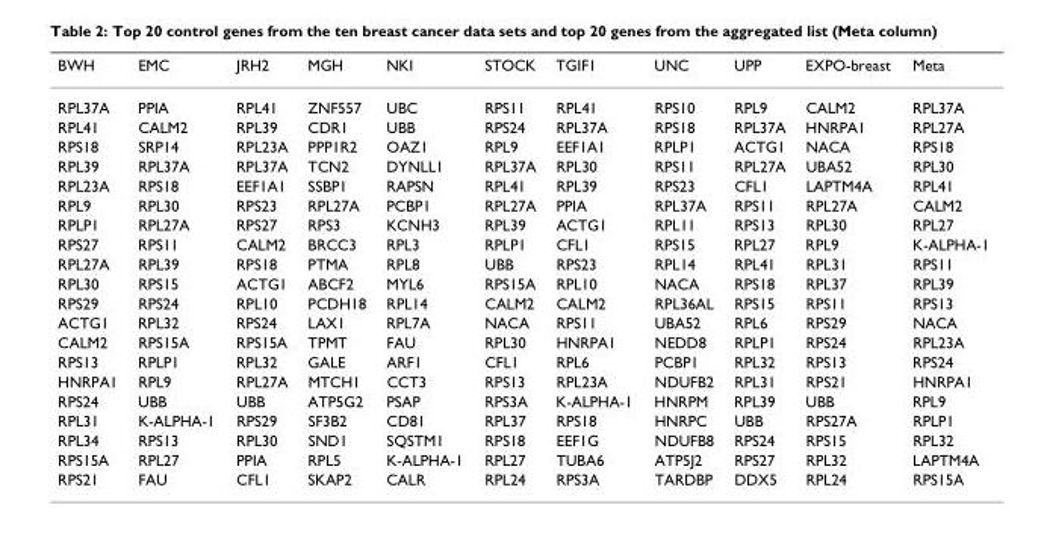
<table><thead><tr><td>BWH</td><td>EMC</td><td>JRH2</td><td>MGH</td><td>NKI</td><td>STOCK</td><td>TGIF1</td><td>UNC</td><td>UPP</td><td>EXPO-breast</td><td>Meta</td></tr></thead><tbody><tr><td>RPL37A</td><td>PPIA</td><td>RPL41</td><td>ZNF557</td><td>UBC</td><td>RPS11</td><td>RPL41</td><td>RPS10</td><td>RPL9</td><td>CALM2</td><td>RPL37A</td></tr><tr><td>RPL41</td><td>CALM2</td><td>RPL39</td><td>CDR1</td><td>UBB</td><td>RPS24</td><td>RPL37A</td><td>RPS18</td><td>RPL37A</td><td>HNRPA1</td><td>RPL27A</td></tr><tr><td>RPS18</td><td>SRP14</td><td>RPL23A</td><td>PPP1R2</td><td>OAZ1</td><td>RPL9</td><td>EEF1A1</td><td>RPLP1</td><td>ACTG1</td><td>NACA</td><td>RPS18</td></tr><tr><td>RPL39</td><td>RPL37A</td><td>RPL37A</td><td>TCN2</td><td>DYNLL1</td><td>RPL37A</td><td>RPL30</td><td>RPS11</td><td>RPL27A</td><td>UBA52</td><td>RPL30</td></tr><tr><td>RPL23A</td><td>RPS18</td><td>EEF1A1</td><td>SSBP1</td><td>RAPSN</td><td>RPL41</td><td>RPL39</td><td>RPS23</td><td>CFL1</td><td>LAPTM4A</td><td>RPL41</td></tr><tr><td>RPL9</td><td>RPL30</td><td>RPS23</td><td>RPL27A</td><td>PCBP1</td><td>RPL27A</td><td>PPIA</td><td>RPL37A</td><td>RPS11</td><td>RPL27A</td><td>CALM2</td></tr><tr><td>RPLP1</td><td>RPL27A</td><td>RPS27</td><td>RPS3</td><td>KCNH3</td><td>RPL39</td><td>ACTG1</td><td>RPL11</td><td>RPS13</td><td>RPL30</td><td>RPL27</td></tr><tr><td>RPS27</td><td>RPS11</td><td>CALM2</td><td>BRCC3</td><td>RPL3</td><td>RPLP1</td><td>CFL1</td><td>RPS15</td><td>RPL27</td><td>RPL9</td><td>K-ALPHA-1</td></tr><tr><td>RPL27A</td><td>RPL39</td><td>RPS18</td><td>PTMA</td><td>RPL8</td><td>UBB</td><td>RPS23</td><td>RPL14</td><td>RPL41</td><td>RPL31</td><td>RPS11</td></tr><tr><td>RPL30</td><td>RPS15</td><td>ACTG1</td><td>ABCF2</td><td>MYL6</td><td>RPS15A</td><td>RPL10</td><td>NACA</td><td>RPS18</td><td>RPL37</td><td>RPL39</td></tr><tr><td>RPS29</td><td>RPS24</td><td>RPL10</td><td>PCDH18</td><td>RPL14</td><td>CALM2</td><td>CALM2</td><td>RPL36AL</td><td>RPS15</td><td>RPS11</td><td>RPS13</td></tr><tr><td>ACTG1</td><td>RPL32</td><td>RPS24</td><td>LAX1</td><td>RPL7A</td><td>NACA</td><td>RPS11</td><td>UBA52</td><td>RPL6</td><td>RPS29</td><td>NACA</td></tr><tr><td>CALM2</td><td>RPS15A</td><td>RPS15A</td><td>TPMT</td><td>FAU</td><td>RPL30</td><td>HNRPA1</td><td>NEDD8</td><td>RPLP1</td><td>RPS24</td><td>RPL23A</td></tr><tr><td>RPS13</td><td>RPLP1</td><td>RPL32</td><td>GALE</td><td>ARF1</td><td>CFL1</td><td>RPL6</td><td>PCBP1</td><td>RPL32</td><td>RPS13</td><td>RPS24</td></tr><tr><td>HNRPA1</td><td>RPL9</td><td>RPL27A</td><td>MTCH1</td><td>CCT3</td><td>RPS13</td><td>RPL23A</td><td>NDUFB2</td><td>RPL31</td><td>RPS21</td><td>HNRPA1</td></tr><tr><td>RPS24</td><td>UBB</td><td>UBB</td><td>ATP5G2</td><td>PSAP</td><td>RPS3A</td><td>K-ALPHA-1</td><td>HNRPM</td><td>RPL39</td><td>UBB</td><td>RPL9</td></tr><tr><td>RPL31</td><td>K-ALPHA-1</td><td>RPS29</td><td>SF3B2</td><td>CD81</td><td>RPL37</td><td>RPS18</td><td>HNRPC</td><td>UBB</td><td>RPS27A</td><td>RPLP1</td></tr><tr><td>RPL34</td><td>RPS13</td><td>RPL30</td><td>SND1</td><td>SQSTM1</td><td>RPS18</td><td>EEF1G</td><td>NDUFB8</td><td>RPS24</td><td>RPS15</td><td>RPL32</td></tr><tr><td>RPS15A</td><td>RPL27</td><td>PPIA</td><td>RPL5</td><td>K-ALPHA-1</td><td>RPL27</td><td>TUBA6</td><td>ATP5J2</td><td>RPS27</td><td>RPL32</td><td>LAPTM4A</td></tr><tr><td>RPS21</td><td>FAU</td><td>CFL1</td><td>SKAP2</td><td>CALR</td><td>RPL24</td><td>RPS3A</td><td>TARDBP</td><td>DDX5</td><td>RPL24</td><td>RPS15A</td></tr></tbody></table>